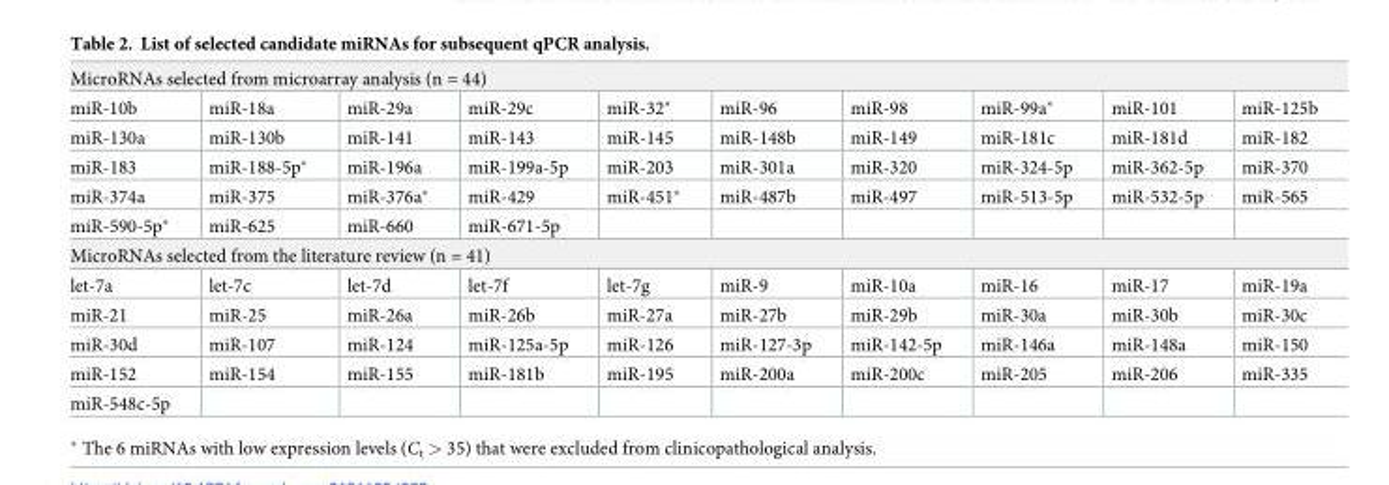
<table><tbody><tr><td colspan="10">MicroRNAs selected from microarray analysis (n = 44)</td></tr><tr><td>miR-10b</td><td>miR-18a</td><td>miR-29a</td><td>miR-29c</td><td>miR-32*</td><td>miR-96</td><td>miR-98</td><td>miR-99a*</td><td>miR-101</td><td>miR-125b</td></tr><tr><td>miR-130a</td><td>miR-130b</td><td>miR-141</td><td>miR-143</td><td>miR-145</td><td>miR-148b</td><td>miR-149</td><td>miR-181c</td><td>miR-181d</td><td>miR-182</td></tr><tr><td>miR-183</td><td>miR-188-5p*</td><td>miR-196a</td><td>miR-199a-5p</td><td>miR-203</td><td>miR-301a</td><td>miR-320</td><td>miR-324-5p</td><td>miR-362-5p</td><td>miR-370</td></tr><tr><td>miR-374a</td><td>miR-375</td><td>miR-376a*</td><td>miR-429</td><td>miR-451*</td><td>miR-487b</td><td>miR-497</td><td>miR-513-5p</td><td>miR-532-5p</td><td>miR-565</td></tr><tr><td>miR-590-5p*</td><td>miR-625</td><td>miR-660</td><td>miR-671-5p</td><td></td><td></td><td></td><td></td><td></td><td></td></tr><tr><td colspan="10">MicroRNAs selected from the literature review (n = 41)</td></tr><tr><td>let-7a</td><td>let-7c</td><td>let-7d</td><td>let-7f</td><td>let-7g</td><td>miR-9</td><td>miR-10a</td><td>miR-16</td><td>miR-17</td><td>miR-19a</td></tr><tr><td>miR-21</td><td>miR-25</td><td>miR-26a</td><td>miR-26b</td><td>miR-27a</td><td>miR-27b</td><td>miR-29b</td><td>miR-30a</td><td>miR-30b</td><td>miR-30c</td></tr><tr><td>miR-30d</td><td>miR-107</td><td>miR-124</td><td>miR-125a-5p</td><td>miR-126</td><td>miR-127-3p</td><td>miR-142-5p</td><td>miR-146a</td><td>miR-148a</td><td>miR-150</td></tr><tr><td>miR-152</td><td>miR-154</td><td>miR-155</td><td>miR-181b</td><td>miR-195</td><td>miR-200a</td><td>miR-200c</td><td>miR-205</td><td>miR-206</td><td>miR-335</td></tr><tr><td>miR-548c-5p</td><td></td><td></td><td></td><td></td><td></td><td></td><td></td><td></td><td></td></tr></tbody></table>